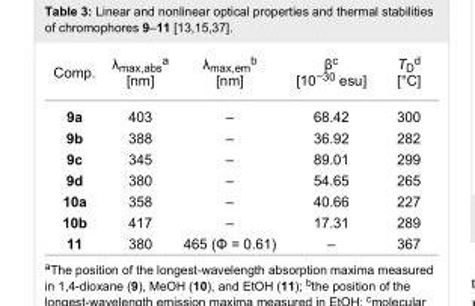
<table><tbody><tr><td>Comp.</td><td>λ<sub>max,abs</sub><sup>a</sup> [nm]</td><td>λ<sub>max,em</sub><sup>b</sup> [nm]</td><td>β<sup>c</sup> [10<sup>−30</sup> esu]</td><td>T<sub>D</sub><sup>d</sup> [°C]</td></tr><tr><td>9a</td><td>403</td><td>–</td><td>68.42</td><td>300</td></tr><tr><td>9b</td><td>388</td><td>–</td><td>36.92</td><td>282</td></tr><tr><td>9c</td><td>345</td><td>–</td><td>89.01</td><td>299</td></tr><tr><td>9d</td><td>380</td><td>–</td><td>54.65</td><td>265</td></tr><tr><td>10a</td><td>358</td><td>–</td><td>40.66</td><td>227</td></tr><tr><td>10b</td><td>417</td><td>–</td><td>17.31</td><td>289</td></tr><tr><td>11</td><td>380</td><td>465 (Φ = 0.61)</td><td>–</td><td>367</td></tr></tbody></table>